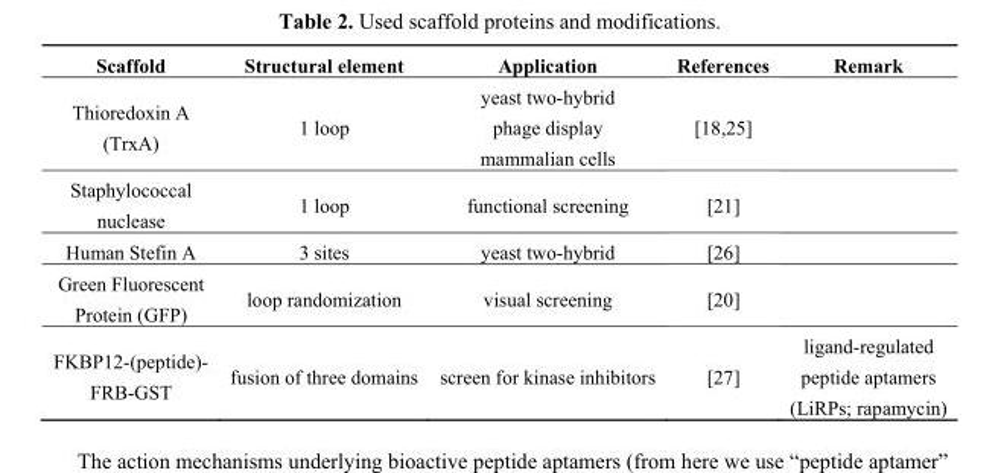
<table><thead><tr><td>Scaffold</td><td>Structural element</td><td>Application</td><td>References</td><td>Remark</td></tr></thead><tbody><tr><td>Thioredoxin A (TrxA)</td><td>1 loop</td><td>yeast two-hybrid phage display mammalian cells</td><td>[18,25]</td><td></td></tr><tr><td>Staphylococcal nuclease</td><td>1 loop</td><td>functional screening</td><td>[21]</td><td></td></tr><tr><td>Human Stefin A</td><td>3 sites</td><td>yeast two-hybrid</td><td>[26]</td><td></td></tr><tr><td>Green Fluorescent Protein (GFP)</td><td>loop randomization</td><td>visual screening</td><td>[20]</td><td></td></tr><tr><td>FKBP12-(peptide)- FRB-GST</td><td>fusion of three domains</td><td>screen for kinase inhibitors</td><td>[27]</td><td>ligand-regulated peptide aptamers (LiRPs; rapamycin)</td></tr></tbody></table>